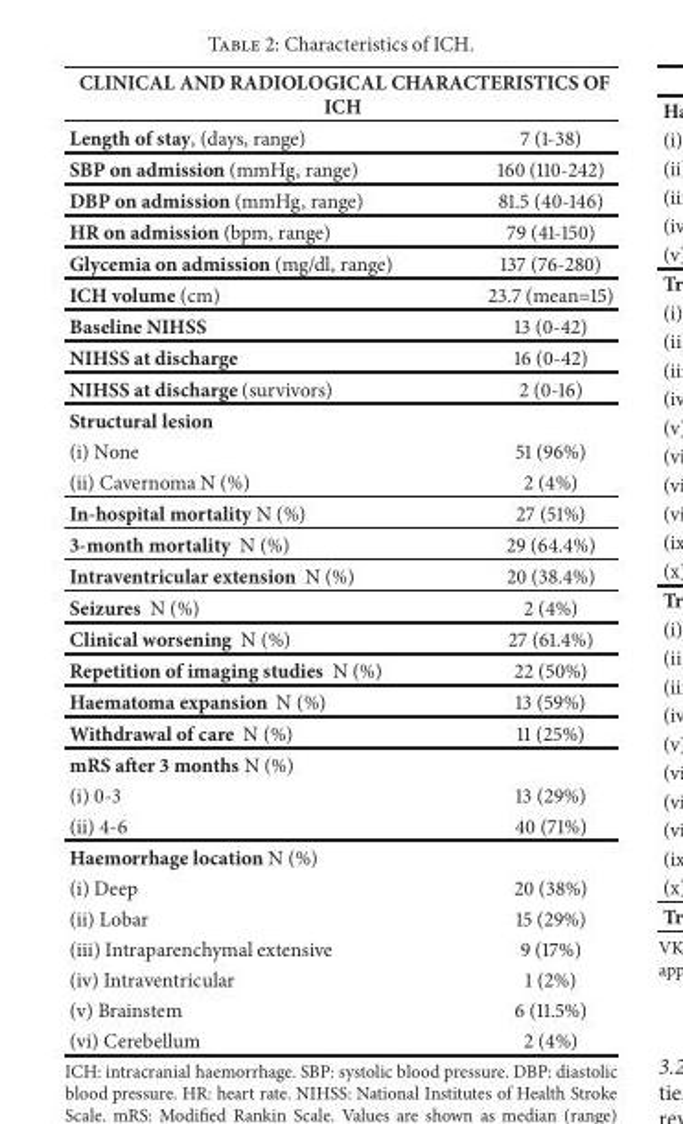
<table><thead><tr><td colspan="2">CLINICAL AND RADIOLOGICAL CHARACTERISTICS OF ICH</td></tr><tr><td>Length of stay, (days, range)</td><td>7 (1-38)</td></tr></thead><tbody><tr><td>SBP on admission (mmHg, range)</td><td>160 (110-242)</td></tr><tr><td>DBP on admission (mmHg, range)</td><td>81.5 (40-146)</td></tr><tr><td>HR on admission (bpm, range)</td><td>79 (41-150)</td></tr><tr><td>Glycemia on admission (mg/dl, range)</td><td>137 (76-280)</td></tr><tr><td>ICH volume (cm)</td><td>23.7 (mean=15)</td></tr><tr><td>Baseline NIHSS</td><td>13 (0-42)</td></tr><tr><td>NIHSS at discharge</td><td>16 (0-42)</td></tr><tr><td>NIHSS at discharge (survivors)</td><td>2 (0-16)</td></tr><tr><td colspan="2">Structural lesion</td></tr><tr><td>(i) None</td><td>51 (96%)</td></tr><tr><td>(ii) Cavernoma N (%)</td><td>2 (4%)</td></tr><tr><td>In-hospital mortality N (%)</td><td>27 (51%)</td></tr><tr><td>3-month mortality N (%)</td><td>29 (64.4%)</td></tr><tr><td>Intraventricular extension N (%)</td><td>20 (38.4%)</td></tr><tr><td>Seizures N (%)</td><td>2 (4%)</td></tr><tr><td>Clinical worsening N (%)</td><td>27 (61.4%)</td></tr><tr><td>Repetition of imaging studies N (%)</td><td>22 (50%)</td></tr><tr><td>Haematoma expansion N (%)</td><td>13 (59%)</td></tr><tr><td>Withdrawal of care N (%)</td><td>11 (25%)</td></tr><tr><td colspan="2">mRS after 3 months N (%)</td></tr><tr><td>(i) 0-3</td><td>13 (29%)</td></tr><tr><td>(ii) 4-6</td><td>40 (71%)</td></tr><tr><td colspan="2">Haemorrhage location N (%)</td></tr><tr><td>(i) Deep</td><td>20 (38%)</td></tr><tr><td>(ii) Lobar</td><td>15 (29%)</td></tr><tr><td>(iii) Intraparenchymal extensive</td><td>9 (17%)</td></tr><tr><td>(iv) Intraventricular</td><td>1 (2%)</td></tr><tr><td>(v) Brainstem</td><td>6 (11.5%)</td></tr><tr><td>(vi) Cerebellum</td><td>2 (4%)</td></tr></tbody></table>